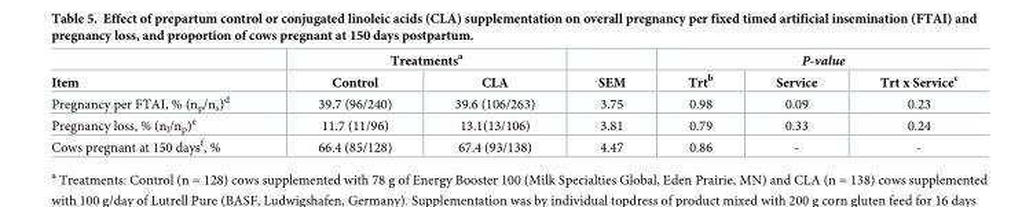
<table><thead><tr><td rowspan="2">Item</td><td colspan="2">Treatments<sup>a</sup></td><td rowspan="2">SEM</td><td colspan="3">P-value</td></tr><tr><td>Control</td><td>CLA</td><td>Trt<sup>b</sup></td><td>Service</td><td>Trt x Service<sup>c</sup></td></tr></thead><tbody><tr><td>Pregnancy per FTAI, % (n<sub>p</sub>/n<sub>s</sub>)<sup>d</sup></td><td>39.7 (96/240)</td><td>39.6 (106/263)</td><td>3.75</td><td>0.98</td><td>0.09</td><td>0.23</td></tr><tr><td>Pregnancy loss, % (n<sub>l</sub>/n<sub>p</sub>)<sup>e</sup></td><td>11.7 (11/96)</td><td>13.1(13/106)</td><td>3.81</td><td>0.79</td><td>0.33</td><td>0.24</td></tr><tr><td>Cows pregnant at 150 days<sup>f</sup>, %</td><td>66.4 (85/128)</td><td>67.4 (93/138)</td><td>4.47</td><td>0.86</td><td>-</td><td>-</td></tr></tbody></table>